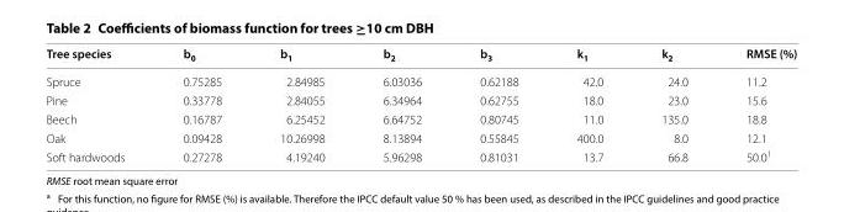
<table><thead><tr><td>Tree species</td><td>b<sub>0</sub></td><td>b<sub>1</sub></td><td>b<sub>2</sub></td><td>b<sub>3</sub></td><td>k<sub>1</sub></td><td>k<sub>2</sub></td><td>RMSE (%)</td></tr></thead><tbody><tr><td>Spruce</td><td>0.75285</td><td>2.84985</td><td>6.03036</td><td>0.62188</td><td>42.0</td><td>24.0</td><td>11.2</td></tr><tr><td>Pine</td><td>0.33778</td><td>2.84055</td><td>6.34964</td><td>0.62755</td><td>18.0</td><td>23.0</td><td>15.6</td></tr><tr><td>Beech</td><td>0.16787</td><td>6.25452</td><td>6.64752</td><td>0.80745</td><td>11.0</td><td>135.0</td><td>18.8</td></tr><tr><td>Oak</td><td>0.09428</td><td>10.26998</td><td>8.13894</td><td>0.55845</td><td>400.0</td><td>8.0</td><td>12.1</td></tr><tr><td>Soft hardwoods</td><td>0.27278</td><td>4.19240</td><td>5.96298</td><td>0.81031</td><td>13.7</td><td>66.8</td><td>50.0<sup>1</sup></td></tr></tbody></table>